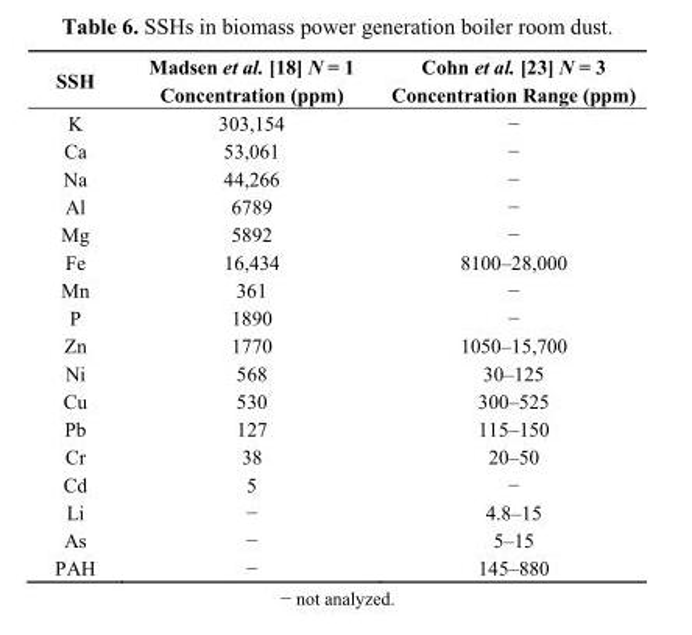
<table><thead><tr><td>SSH</td><td>Madsen et al. [18] N = 1 Concentration (ppm)</td><td>Cohn et al. [23] N = 3 Concentration Range (ppm)</td></tr></thead><tbody><tr><td>K</td><td>303,154</td><td>−</td></tr><tr><td>Ca</td><td>53,061</td><td>−</td></tr><tr><td>Na</td><td>44,266</td><td>−</td></tr><tr><td>Al</td><td>6789</td><td>−</td></tr><tr><td>Mg</td><td>5892</td><td>−</td></tr><tr><td>Fe</td><td>16,434</td><td>8100–28,000</td></tr><tr><td>Mn</td><td>361</td><td>−</td></tr><tr><td>P</td><td>1890</td><td>−</td></tr><tr><td>Zn</td><td>1770</td><td>1050–15,700</td></tr><tr><td>Ni</td><td>568</td><td>30–125</td></tr><tr><td>Cu</td><td>530</td><td>300–525</td></tr><tr><td>Pb</td><td>127</td><td>115–150</td></tr><tr><td>Cr</td><td>38</td><td>20–50</td></tr><tr><td>Cd</td><td>5</td><td>−</td></tr><tr><td>Li</td><td>−</td><td>4.8–15</td></tr><tr><td>As</td><td>−</td><td>5–15</td></tr><tr><td>PAH</td><td>−</td><td>145–880</td></tr></tbody></table>